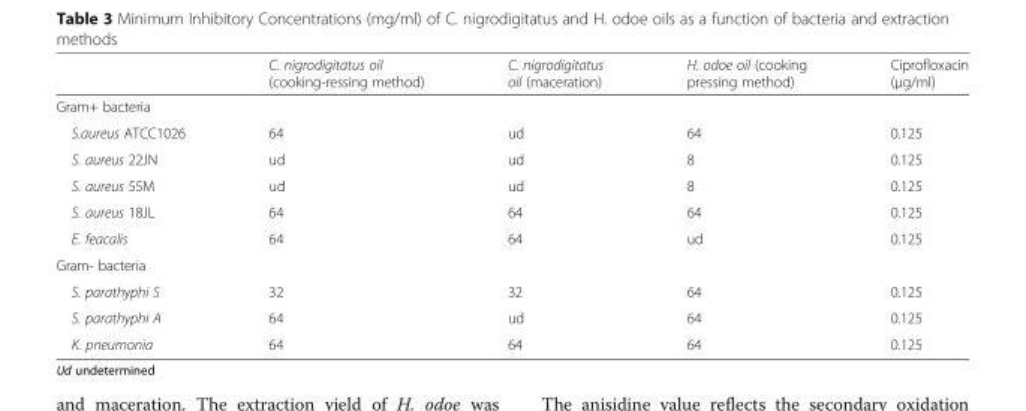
<table><thead><tr><td></td><td>C. nigrodigitatus oil (cooking-ressing method)</td><td>C. nigrodigitatus oil (maceration)</td><td>H. odoe oil (cooking pressing method)</td><td>Ciprofloxacin (μg/ml)</td></tr></thead><tbody><tr><td colspan="5">Gram+ bacteria</td></tr><tr><td>S.aureus ATCC1026</td><td>64</td><td>ud</td><td>64</td><td>0.125</td></tr><tr><td>S. aureus 22JN</td><td>ud</td><td>ud</td><td>8</td><td>0.125</td></tr><tr><td>S. aureus 55M</td><td>ud</td><td>ud</td><td>8</td><td>0.125</td></tr><tr><td>S. aureus 18JL</td><td>64</td><td>64</td><td>64</td><td>0.125</td></tr><tr><td>E. feacalis</td><td>64</td><td>64</td><td>ud</td><td>0.125</td></tr><tr><td colspan="5">Gram- bacteria</td></tr><tr><td>S. parathyphi S</td><td>32</td><td>32</td><td>64</td><td>0.125</td></tr><tr><td>S. parathyphi A</td><td>64</td><td>ud</td><td>64</td><td>0.125</td></tr><tr><td>K. pneumonia</td><td>64</td><td>64</td><td>64</td><td>0.125</td></tr></tbody></table>